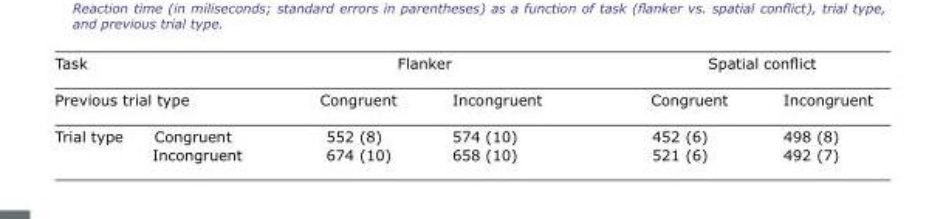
<table><thead><tr><td rowspan="2" colspan="2">Task Previous trial type</td><td colspan="2">Flanker</td><td colspan="2">Spatial conflict</td></tr><tr><td rowspan="2">Congruent 552 (8)</td><td rowspan="2">Incongruent 574 (10)</td><td rowspan="2">Congruent 452 (6)</td><td rowspan="2">Incongruent 498 (8)</td></tr><tr><td>Trial type</td><td>Congruent</td></tr></thead><tbody><tr><td></td><td>Incongruent</td><td>674 (10)</td><td>658 (10)</td><td>521 (6)</td><td>492 (7)</td></tr></tbody></table>